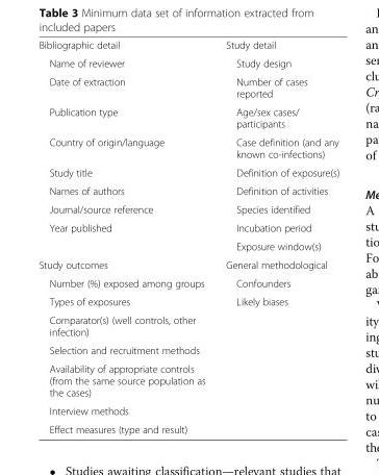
<table><tbody><tr><td>Bibliographic detail</td><td>Study detail</td></tr><tr><td>Name of reviewer</td><td>Study design</td></tr><tr><td>Date of extraction</td><td>Number of cases reported</td></tr><tr><td>Publication type</td><td>Age/sex cases/ participants</td></tr><tr><td>Country of origin/language</td><td>Case definition (and any known co-infections)</td></tr><tr><td>Study title</td><td>Definition of exposure(s)</td></tr><tr><td>Names of authors</td><td>Definition of activities</td></tr><tr><td>Journal/source reference</td><td>Species identified</td></tr><tr><td rowspan="2">Year published</td><td>Incubation period</td></tr><tr><td>Exposure window(s)</td></tr><tr><td>Study outcomes</td><td>General methodological</td></tr><tr><td>Number (%) exposed among groups</td><td>Confounders</td></tr><tr><td>Types of exposures</td><td>Likely biases</td></tr><tr><td colspan="2">Comparator(s) (well controls, other infection)</td></tr><tr><td colspan="2">Selection and recruitment methods</td></tr><tr><td colspan="2">Availability of appropriate controls (from the same source population as the cases)</td></tr><tr><td colspan="2">Interview methods</td></tr><tr><td>Effect measures (type and result)</td><td></td></tr></tbody></table>